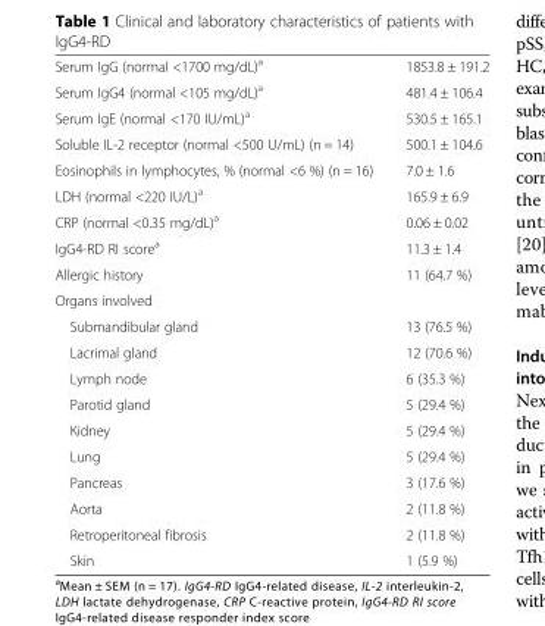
<table><tbody><tr><td>Serum IgG (normal &lt;1700 mg/dL)<sup>a</sup></td><td>1853.8 ± 191.2</td></tr><tr><td>Serum IgG4 (normal &lt;105 mg/dL)<sup>a</sup></td><td>481.4 ± 106.4</td></tr><tr><td>Serum IgE (normal &lt;170 IU/mL)<sup>a</sup></td><td>530.5 ± 165.1</td></tr><tr><td>Soluble IL-2 receptor (normal &lt;500 U/mL) (n = 14)</td><td>500.1 ± 104.6</td></tr><tr><td>Eosinophils in lymphocytes, % (normal &lt;6 %) (n = 16)</td><td>7.0 ± 1.6</td></tr><tr><td>LDH (normal &lt;220 IU/L)<sup>a</sup></td><td>165.9 ± 6.9</td></tr><tr><td>CRP (normal &lt;0.35 mg/dL)<sup>a</sup></td><td>0.06 ± 0.02</td></tr><tr><td>IgG4-RD RI score<sup>a</sup></td><td>11.3 ± 1.4</td></tr><tr><td>Allergic history</td><td>11 (64.7 %)</td></tr><tr><td colspan="2">Organs involved</td></tr><tr><td>Submandibular gland</td><td>13 (76.5 %)</td></tr><tr><td>Lacrimal gland</td><td>12 (70.6 %)</td></tr><tr><td>Lymph node</td><td>6 (35.3 %)</td></tr><tr><td>Parotid gland</td><td>5 (29.4 %)</td></tr><tr><td>Kidney</td><td>5 (29.4 %)</td></tr><tr><td>Lung</td><td>5 (29.4 %)</td></tr><tr><td>Pancreas</td><td>3 (17.6 %)</td></tr><tr><td>Aorta</td><td>2 (11.8 %)</td></tr><tr><td>Retroperitoneal fibrosis</td><td>2 (11.8 %)</td></tr><tr><td>Skin</td><td>1 (5.9 %)</td></tr></tbody></table>